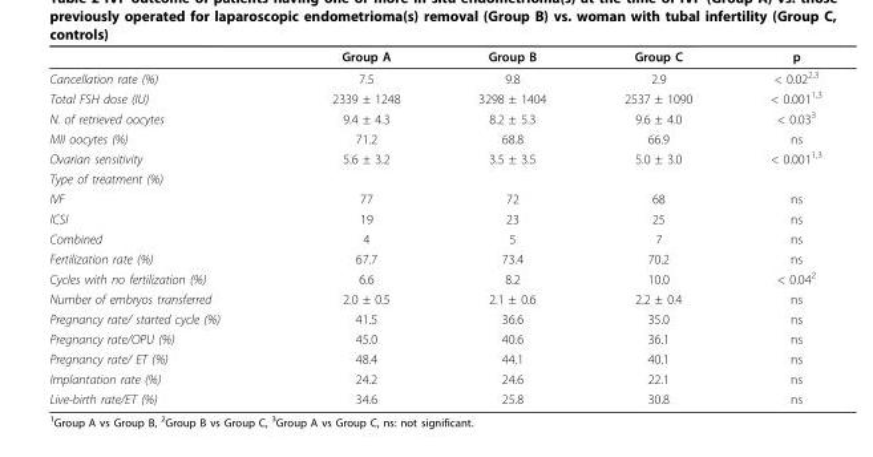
<table><thead><tr><td></td><td>Group A</td><td>Group B</td><td>Group C</td><td>p</td></tr></thead><tbody><tr><td>Cancellation rate (%)</td><td>7.5</td><td>9.8</td><td>2.9</td><td>&lt; 0.02<sup>2,3</sup></td></tr><tr><td>Total FSH dose (IU)</td><td>2339 ± 1248</td><td>3298 ± 1404</td><td>2537 ± 1090</td><td>&lt; 0.001<sup>1,3</sup></td></tr><tr><td>N. of retrieved oocytes</td><td>9.4 ± 4.3</td><td>8.2 ± 5.3</td><td>9.6 ± 4.0</td><td>&lt; 0.03<sup>3</sup></td></tr><tr><td>MII oocytes (%)</td><td>71.2</td><td>68.8</td><td>66.9</td><td>ns</td></tr><tr><td>Ovarian sensitivity</td><td>5.6 ± 3.2</td><td>3.5 ± 3.5</td><td>5.0 ± 3.0</td><td>&lt; 0.001<sup>1,3</sup></td></tr><tr><td colspan="5">Type of treatment (%)</td></tr><tr><td>IVF</td><td>77</td><td>72</td><td>68</td><td>ns</td></tr><tr><td>ICSI</td><td>19</td><td>23</td><td>25</td><td>ns</td></tr><tr><td>Combined</td><td>4</td><td>5</td><td>7</td><td>ns</td></tr><tr><td>Fertilization rate (%)</td><td>67.7</td><td>73.4</td><td>70.2</td><td>ns</td></tr><tr><td>Cycles with no fertilization (%)</td><td>6.6</td><td>8.2</td><td>10.0</td><td>&lt; 0.04<sup>2</sup></td></tr><tr><td>Number of embryos transferred</td><td>2.0 ± 0.5</td><td>2.1 ± 0.6</td><td>2.2 ± 0.4</td><td>ns</td></tr><tr><td>Pregnancy rate/ started cycle (%)</td><td>41.5</td><td>36.6</td><td>35.0</td><td>ns</td></tr><tr><td>Pregnancy rate/OPU (%)</td><td>45.0</td><td>40.6</td><td>36.1</td><td>ns</td></tr><tr><td>Pregnancy rate/ ET (%)</td><td>48.4</td><td>44.1</td><td>40.1</td><td>ns</td></tr><tr><td>Implantation rate (%)</td><td>24.2</td><td>24.6</td><td>22.1</td><td>ns</td></tr><tr><td>Live-birth rate/ET (%)</td><td>34.6</td><td>25.8</td><td>30.8</td><td>ns</td></tr></tbody></table>